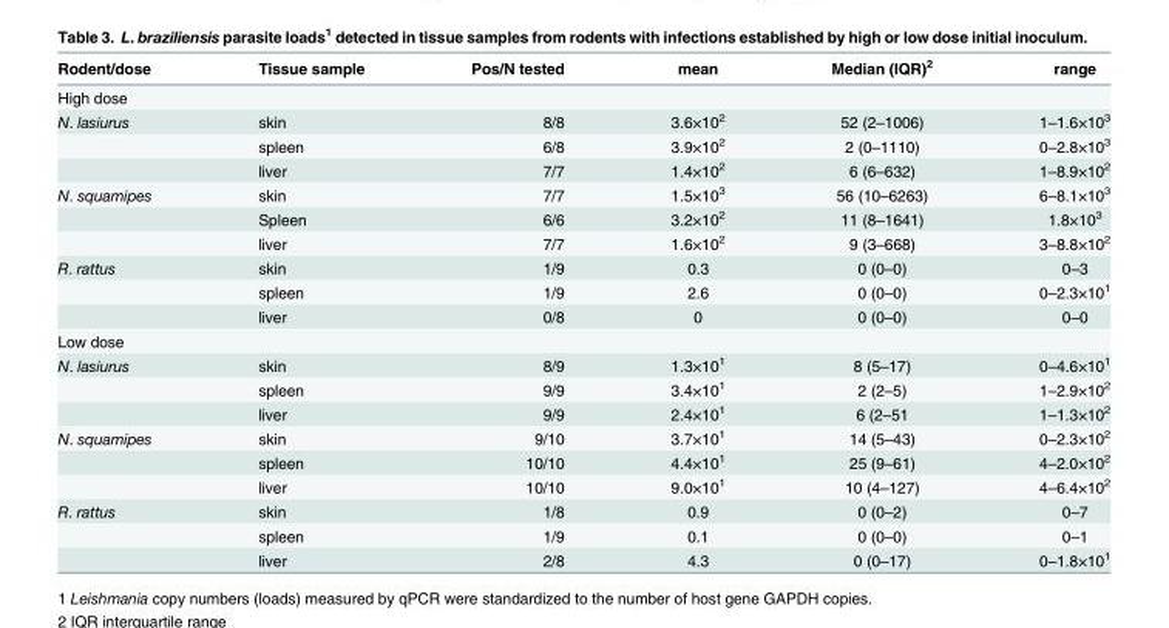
<table><thead><tr><td>Rodent/dose</td><td>Tissue sample</td><td>Pos/N tested</td><td>mean</td><td>Median (IQR)<sup>2</sup></td><td>range</td></tr></thead><tbody><tr><td colspan="6">High dose</td></tr><tr><td rowspan="3">N. lasiurus</td><td>skin</td><td>8/8</td><td>3.6×10<sup>2</sup></td><td>52 (2–1006)</td><td>1–1.6×10<sup>3</sup></td></tr><tr><td>spleen</td><td>6/8</td><td>3.9×10<sup>2</sup></td><td>2 (0–1110)</td><td>0–2.8×10<sup>3</sup></td></tr><tr><td>liver</td><td>7/7</td><td>1.4×10<sup>2</sup></td><td>6 (6–632)</td><td>1–8.9×10<sup>2</sup></td></tr><tr><td rowspan="3">N. squamipes</td><td>skin</td><td>7/7</td><td>1.5×10<sup>3</sup></td><td>56 (10–6263)</td><td>6–8.1×10<sup>3</sup></td></tr><tr><td>Spleen</td><td>6/6</td><td>3.2×10<sup>2</sup></td><td>11 (8–1641)</td><td>1.8×10<sup>3</sup></td></tr><tr><td>liver</td><td>7/7</td><td>1.6×10<sup>2</sup></td><td>9 (3–668)</td><td>3–8.8×10<sup>2</sup></td></tr><tr><td rowspan="3">R. rattus</td><td>skin</td><td>1/9</td><td>0.3</td><td>0 (0–0)</td><td>0–3</td></tr><tr><td>spleen</td><td>1/9</td><td>2.6</td><td>0 (0–0)</td><td>0–2.3×10<sup>1</sup></td></tr><tr><td>liver</td><td>0/8</td><td>0</td><td>0 (0–0)</td><td>0–0</td></tr><tr><td colspan="6">Low dose</td></tr><tr><td rowspan="3">N. lasiurus</td><td>skin</td><td>8/9</td><td>1.3×10<sup>1</sup></td><td>8 (5–17)</td><td>0–4.6×10<sup>1</sup></td></tr><tr><td>spleen</td><td>9/9</td><td>3.4×10<sup>1</sup></td><td>2 (2–5)</td><td>1–2.9×10<sup>2</sup></td></tr><tr><td>liver</td><td>9/9</td><td>2.4×10<sup>1</sup></td><td>6 (2–51</td><td>1–1.3×10<sup>2</sup></td></tr><tr><td rowspan="3">N. squamipes</td><td>skin</td><td>9/10</td><td>3.7×10<sup>1</sup></td><td>14 (5–43)</td><td>0–2.3×10<sup>2</sup></td></tr><tr><td>spleen</td><td>10/10</td><td>4.4×10<sup>1</sup></td><td>25 (9–61)</td><td>4–2.0×10<sup>2</sup></td></tr><tr><td>liver</td><td>10/10</td><td>9.0×10<sup>1</sup></td><td>10 (4–127)</td><td>4–6.4×10<sup>2</sup></td></tr><tr><td rowspan="3">R. rattus</td><td>skin</td><td>1/8</td><td>0.9</td><td>0 (0–2)</td><td>0–7</td></tr><tr><td>spleen</td><td>1/9</td><td>0.1</td><td>0 (0–0)</td><td>0–1</td></tr><tr><td>liver</td><td>2/8</td><td>4.3</td><td>0 (0–17)</td><td>0–1.8×10<sup>1</sup></td></tr></tbody></table>